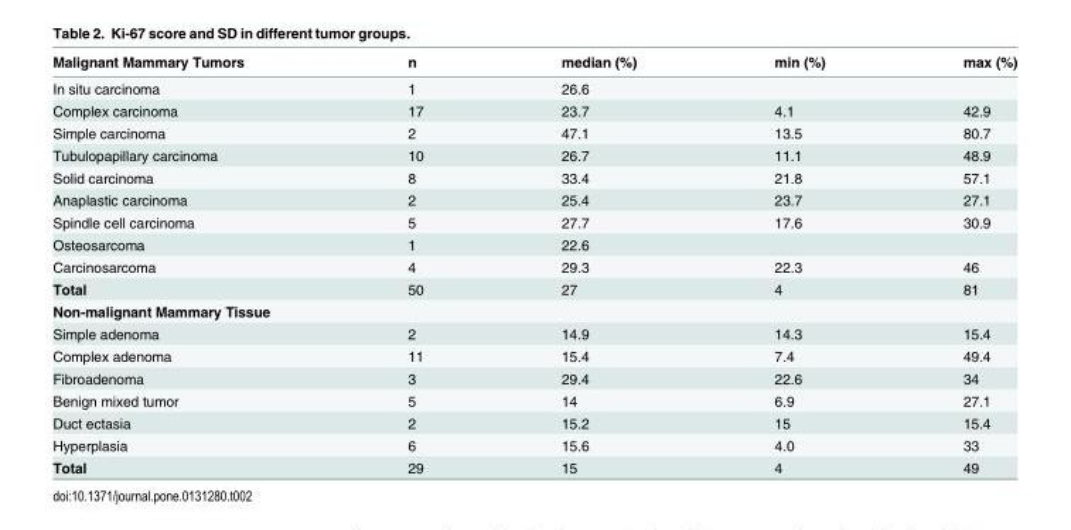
<table><thead><tr><td>Malignant Mammary Tumors</td><td>n</td><td>median (%)</td><td>min (%)</td><td>max (%)</td></tr></thead><tbody><tr><td>In situ carcinoma</td><td>1</td><td>26.6</td><td></td><td></td></tr><tr><td>Complex carcinoma</td><td>17</td><td>23.7</td><td>4.1</td><td>42.9</td></tr><tr><td>Simple carcinoma</td><td>2</td><td>47.1</td><td>13.5</td><td>80.7</td></tr><tr><td>Tubulopapillary carcinoma</td><td>10</td><td>26.7</td><td>11.1</td><td>48.9</td></tr><tr><td>Solid carcinoma</td><td>8</td><td>33.4</td><td>21.8</td><td>57.1</td></tr><tr><td>Anaplastic carcinoma</td><td>2</td><td>25.4</td><td>23.7</td><td>27.1</td></tr><tr><td>Spindle cell carcinoma</td><td>5</td><td>27.7</td><td>17.6</td><td>30.9</td></tr><tr><td>Osteosarcoma</td><td>1</td><td>22.6</td><td></td><td></td></tr><tr><td>Carcinosarcoma</td><td>4</td><td>29.3</td><td>22.3</td><td>46</td></tr><tr><td>Total</td><td>50</td><td>27</td><td>4</td><td>81</td></tr><tr><td colspan="5">Non-malignant Mammary Tissue</td></tr><tr><td>Simple adenoma</td><td>2</td><td>14.9</td><td>14.3</td><td>15.4</td></tr><tr><td>Complex adenoma</td><td>11</td><td>15.4</td><td>7.4</td><td>49.4</td></tr><tr><td>Fibroadenoma</td><td>3</td><td>29.4</td><td>22.6</td><td>34</td></tr><tr><td>Benign mixed tumor</td><td>5</td><td>14</td><td>6.9</td><td>27.1</td></tr><tr><td>Duct ectasia</td><td>2</td><td>15.2</td><td>15</td><td>15.4</td></tr><tr><td>Hyperplasia</td><td>6</td><td>15.6</td><td>4.0</td><td>33</td></tr><tr><td>Total</td><td>29</td><td>15</td><td>4</td><td>49</td></tr></tbody></table>